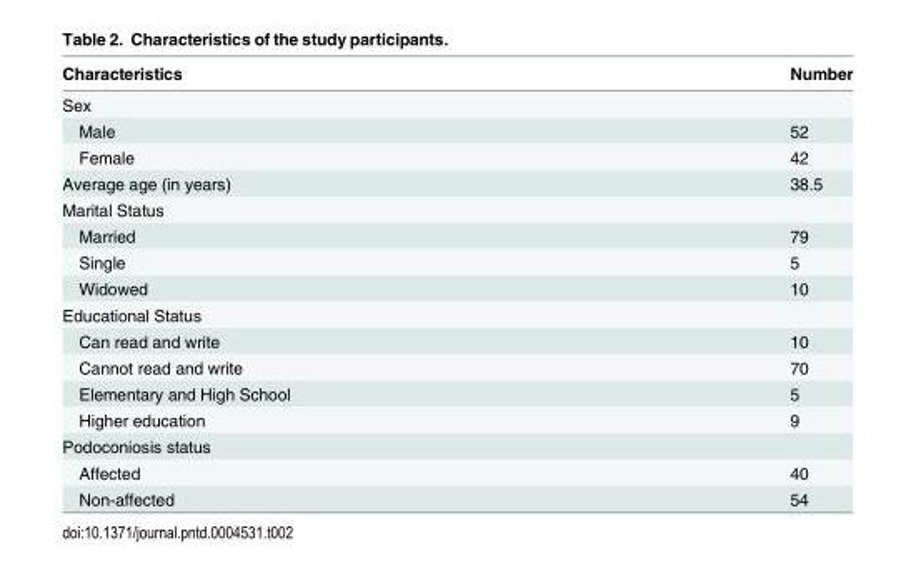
<table><thead><tr><td>Characteristics</td><td>Number</td></tr></thead><tbody><tr><td colspan="2">Sex</td></tr><tr><td>Male</td><td>52</td></tr><tr><td>Female</td><td>42</td></tr><tr><td>Average age (in years)</td><td>38.5</td></tr><tr><td colspan="2">Marital Status</td></tr><tr><td>Married</td><td>79</td></tr><tr><td>Single</td><td>5</td></tr><tr><td>Widowed</td><td>10</td></tr><tr><td colspan="2">Educational Status</td></tr><tr><td>Can read and write</td><td>10</td></tr><tr><td>Cannot read and write</td><td>70</td></tr><tr><td>Elementary and High School</td><td>5</td></tr><tr><td>Higher education</td><td>9</td></tr><tr><td colspan="2">Podoconiosis status</td></tr><tr><td>Affected</td><td>40</td></tr><tr><td>Non-affected</td><td>54</td></tr></tbody></table>